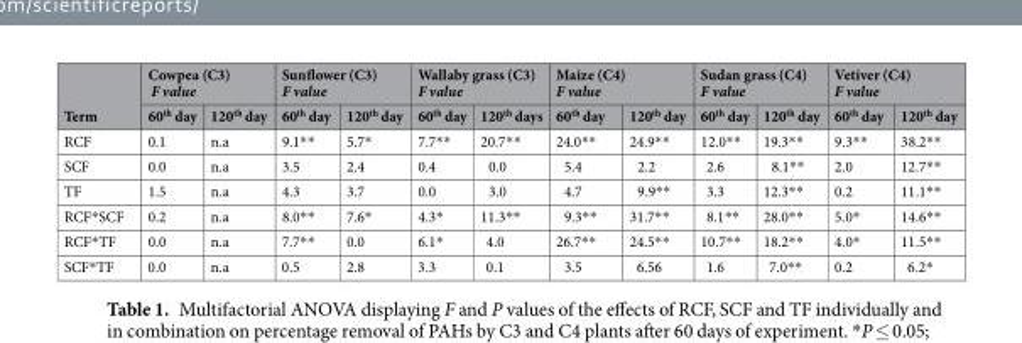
<table><thead><tr><td rowspan="2">Term</td><td colspan="2">Cowpea (C3) F value</td><td colspan="2">Sunflower (C3) F value</td><td colspan="2">Wallaby grass (C3) F value</td><td colspan="2">Maize (C4) F value</td><td colspan="2">Sudan grass (C4) F value</td><td colspan="2">Vetiver (C4) F value</td></tr><tr><td>60<sup>th</sup> day</td><td>120<sup>th</sup> day</td><td>60<sup>th</sup> day</td><td>120<sup>th</sup> day</td><td>60<sup>th</sup> day</td><td>120<sup>th</sup> days</td><td>60<sup>th</sup> day</td><td>120<sup>th</sup> day</td><td>60<sup>th</sup> day</td><td>120<sup>th</sup> day</td><td>60<sup>th</sup> day</td><td>120<sup>th</sup> day</td></tr></thead><tbody><tr><td>RCF</td><td>0.1</td><td>n.a</td><td>9.1**</td><td>5.7*</td><td>7.7**</td><td>20.7**</td><td>24.0**</td><td>24.9**</td><td>12.0**</td><td>19.3**</td><td>9.3**</td><td>38.2**</td></tr><tr><td>SCF</td><td>0.0</td><td>n.a</td><td>3.5</td><td>2.4</td><td>0.4</td><td>0.0</td><td>5.4</td><td>2.2</td><td>2.6</td><td>8.1**</td><td>2.0</td><td>12.7**</td></tr><tr><td>TF</td><td>1.5</td><td>n.a</td><td>4.3</td><td>3.7</td><td>0.0</td><td>3.0</td><td>4.7</td><td>9.9**</td><td>3.3</td><td>12.3**</td><td>0.2</td><td>11.1**</td></tr><tr><td>RCF*SCF</td><td>0.2</td><td>n.a</td><td>8.0**</td><td>7.6*</td><td>4.3*</td><td>11.3**</td><td>9.3**</td><td>31.7**</td><td>8.1**</td><td>28.0**</td><td>5.0*</td><td>14.6**</td></tr><tr><td>RCF*TF</td><td>0.0</td><td>n.a</td><td>7.7**</td><td>0.0</td><td>6.1*</td><td>4.0</td><td>26.7**</td><td>24.5**</td><td>10.7**</td><td>18.2**</td><td>4.0*</td><td>11.5**</td></tr><tr><td>SCF*TF</td><td>0.0</td><td>n.a</td><td>0.5</td><td>2.8</td><td>3.3</td><td>0.1</td><td>3.5</td><td>6.56</td><td>1.6</td><td>7.0**</td><td>0.2</td><td>6.2*</td></tr></tbody></table>